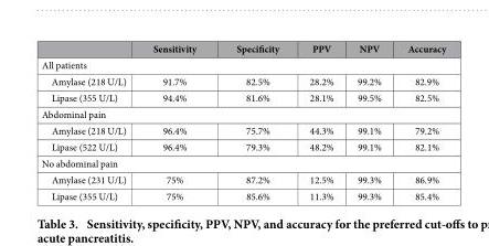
<table><thead><tr><td></td><td>Sensitivity</td><td>Specificity</td><td>PPV</td><td>NPV</td><td>Accuracy</td></tr></thead><tbody><tr><td colspan="6">All patients</td></tr><tr><td>Amylase (218 U/L)</td><td>91.7%</td><td>82.5%</td><td>28.2%</td><td>99.2%</td><td>82.9%</td></tr><tr><td>Lipase (355 U/L)</td><td>94.4%</td><td>81.6%</td><td>28.1%</td><td>99.5%</td><td>82.5%</td></tr><tr><td colspan="6">Abdominal pain</td></tr><tr><td>Amylase (218 U/L)</td><td>96.4%</td><td>75.7%</td><td>44.3%</td><td>99.1%</td><td>79.2%</td></tr><tr><td>Lipase (522 U/L)</td><td>96.4%</td><td>79.3%</td><td>48.2%</td><td>99.1%</td><td>82.1%</td></tr><tr><td colspan="6">No abdominal pain</td></tr><tr><td>Amylase (231 U/L)</td><td>75%</td><td>87.2%</td><td>12.5%</td><td>99.3%</td><td>86.9%</td></tr><tr><td>Lipase (355 U/L)</td><td>75%</td><td>85.6%</td><td>11.3%</td><td>99.3%</td><td>85.4%</td></tr></tbody></table>